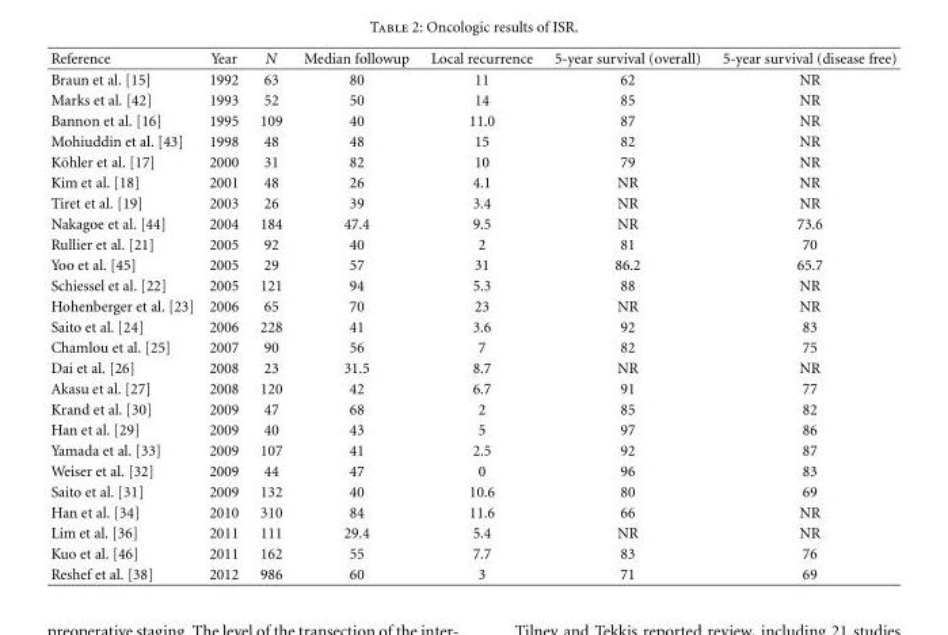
<table><thead><tr><td>Reference</td><td>Year</td><td>N</td><td>Median followup</td><td>Local recurrence</td><td>5-year survival (overall)</td><td>5-year survival (disease free)</td></tr></thead><tbody><tr><td>Braun et al. [15]</td><td>1992</td><td>63</td><td>80</td><td>11</td><td>62</td><td>NR</td></tr><tr><td>Marks et al. [42]</td><td>1993</td><td>52</td><td>50</td><td>14</td><td>85</td><td>NR</td></tr><tr><td>Bannon et al. [16]</td><td>1995</td><td>109</td><td>40</td><td>11.0</td><td>87</td><td>NR</td></tr><tr><td>Mohiuddin et al. [43]</td><td>1998</td><td>48</td><td>48</td><td>15</td><td>82</td><td>NR</td></tr><tr><td>K¨ohler et al. [17]</td><td>2000</td><td>31</td><td>82</td><td>10</td><td>79</td><td>NR</td></tr><tr><td>Kim et al. [18]</td><td>2001</td><td>48</td><td>26</td><td>4.1</td><td>NR</td><td>NR</td></tr><tr><td>Tiret et al. [19]</td><td>2003</td><td>26</td><td>39</td><td>3.4</td><td>NR</td><td>NR</td></tr><tr><td>Nakagoe et al. [44]</td><td>2004</td><td>184</td><td>47.4</td><td>9.5</td><td>NR</td><td>73.6</td></tr><tr><td>Rullier et al. [21]</td><td>2005</td><td>92</td><td>40</td><td>2</td><td>81</td><td>70</td></tr><tr><td>Yoo et al. [45]</td><td>2005</td><td>29</td><td>57</td><td>31</td><td>86.2</td><td>65.7</td></tr><tr><td>Schiessel et al. [22]</td><td>2005</td><td>121</td><td>94</td><td>5.3</td><td>88</td><td>NR</td></tr><tr><td>Hohenberger et al. [23]</td><td>2006</td><td>65</td><td>70</td><td>23</td><td>NR</td><td>NR</td></tr><tr><td>Saito et al. [24]</td><td>2006</td><td>228</td><td>41</td><td>3.6</td><td>92</td><td>83</td></tr><tr><td>Chamlou et al. [25]</td><td>2007</td><td>90</td><td>56</td><td>7</td><td>82</td><td>75</td></tr><tr><td>Dai et al. [26]</td><td>2008</td><td>23</td><td>31.5</td><td>8.7</td><td>NR</td><td>NR</td></tr><tr><td>Akasu et al. [27]</td><td>2008</td><td>120</td><td>42</td><td>6.7</td><td>91</td><td>77</td></tr><tr><td>Krand et al. [30]</td><td>2009</td><td>47</td><td>68</td><td>2</td><td>85</td><td>82</td></tr><tr><td>Han et al. [29]</td><td>2009</td><td>40</td><td>43</td><td>5</td><td>97</td><td>86</td></tr><tr><td>Yamada et al. [33]</td><td>2009</td><td>107</td><td>41</td><td>2.5</td><td>92</td><td>87</td></tr><tr><td>Weiser et al. [32]</td><td>2009</td><td>44</td><td>47</td><td>0</td><td>96</td><td>83</td></tr><tr><td>Saito et al. [31]</td><td>2009</td><td>132</td><td>40</td><td>10.6</td><td>80</td><td>69</td></tr><tr><td>Han et al. [34]</td><td>2010</td><td>310</td><td>84</td><td>11.6</td><td>66</td><td>NR</td></tr><tr><td>Lim et al. [36]</td><td>2011</td><td>111</td><td>29.4</td><td>5.4</td><td>NR</td><td>NR</td></tr><tr><td>Kuo et al. [46]</td><td>2011</td><td>162</td><td>55</td><td>7.7</td><td>83</td><td>76</td></tr><tr><td>Reshef et al. [38]</td><td>2012</td><td>986</td><td>60</td><td>3</td><td>71</td><td>69</td></tr></tbody></table>